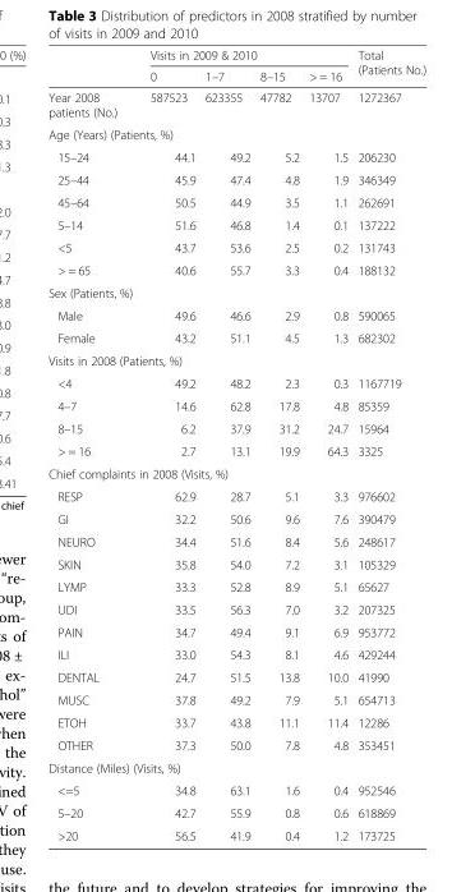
<table><thead><tr><td rowspan="2"></td><td colspan="4">Visits in 2009 &amp; 2010</td><td rowspan="2">Total (Patients No.)</td></tr><tr><td>0</td><td>1–7</td><td>8–15</td><td>&gt; = 16</td></tr></thead><tbody><tr><td>Year 2008 patients (No.)</td><td>587523</td><td>623355</td><td>47782</td><td>13707</td><td>1272367</td></tr><tr><td colspan="6">Age (Years) (Patients, %)</td></tr><tr><td>15–24</td><td>44.1</td><td>49.2</td><td>5.2</td><td>1.5</td><td>206230</td></tr><tr><td>25–44</td><td>45.9</td><td>47.4</td><td>4.8</td><td>1.9</td><td>346349</td></tr><tr><td>45–64</td><td>50.5</td><td>44.9</td><td>3.5</td><td>1.1</td><td>262691</td></tr><tr><td>5–14</td><td>51.6</td><td>46.8</td><td>1.4</td><td>0.1</td><td>137222</td></tr><tr><td>&lt;5</td><td>43.7</td><td>53.6</td><td>2.5</td><td>0.2</td><td>131743</td></tr><tr><td>&gt; = 65</td><td>40.6</td><td>55.7</td><td>3.3</td><td>0.4</td><td>188132</td></tr><tr><td colspan="6">Sex (Patients, %)</td></tr><tr><td>Male</td><td>49.6</td><td>46.6</td><td>2.9</td><td>0.8</td><td>590065</td></tr><tr><td>Female</td><td>43.2</td><td>51.1</td><td>4.5</td><td>1.3</td><td>682302</td></tr><tr><td colspan="6">Visits in 2008 (Patients, %)</td></tr><tr><td>&lt;4</td><td>49.2</td><td>48.2</td><td>2.3</td><td>0.3</td><td>1167719</td></tr><tr><td>4–7</td><td>14.6</td><td>62.8</td><td>17.8</td><td>4.8</td><td>85359</td></tr><tr><td>8–15</td><td>6.2</td><td>37.9</td><td>31.2</td><td>24.7</td><td>15964</td></tr><tr><td>&gt; = 16</td><td>2.7</td><td>13.1</td><td>19.9</td><td>64.3</td><td>3325</td></tr><tr><td colspan="6">Chief complaints in 2008 (Visits, %)</td></tr><tr><td>RESP</td><td>62.9</td><td>28.7</td><td>5.1</td><td>3.3</td><td>976602</td></tr><tr><td>GI</td><td>32.2</td><td>50.6</td><td>9.6</td><td>7.6</td><td>390479</td></tr><tr><td>NEURO</td><td>34.4</td><td>51.6</td><td>8.4</td><td>5.6</td><td>248617</td></tr><tr><td>SKIN</td><td>35.8</td><td>54.0</td><td>7.2</td><td>3.1</td><td>105329</td></tr><tr><td>LYMP</td><td>33.3</td><td>52.8</td><td>8.9</td><td>5.1</td><td>65627</td></tr><tr><td>UDI</td><td>33.5</td><td>56.3</td><td>7.0</td><td>3.2</td><td>207325</td></tr><tr><td>PAIN</td><td>34.7</td><td>49.4</td><td>9.1</td><td>6.9</td><td>953772</td></tr><tr><td>ILI</td><td>33.0</td><td>54.3</td><td>8.1</td><td>4.6</td><td>429244</td></tr><tr><td>DENTAL</td><td>24.7</td><td>51.5</td><td>13.8</td><td>10.0</td><td>41990</td></tr><tr><td>MUSC</td><td>37.8</td><td>49.2</td><td>7.9</td><td>5.1</td><td>654713</td></tr><tr><td>ETOH</td><td>33.7</td><td>43.8</td><td>11.1</td><td>11.4</td><td>12286</td></tr><tr><td>OTHER</td><td>37.3</td><td>50.0</td><td>7.8</td><td>4.8</td><td>353451</td></tr><tr><td colspan="6">Distance (Miles) (Visits, %)</td></tr><tr><td>&lt;=5</td><td>34.8</td><td>63.1</td><td>1.6</td><td>0.4</td><td>952546</td></tr><tr><td>5–20</td><td>42.7</td><td>55.9</td><td>0.8</td><td>0.6</td><td>618869</td></tr><tr><td>&gt;20</td><td>56.5</td><td>41.9</td><td>0.4</td><td>1.2</td><td>173725</td></tr></tbody></table>